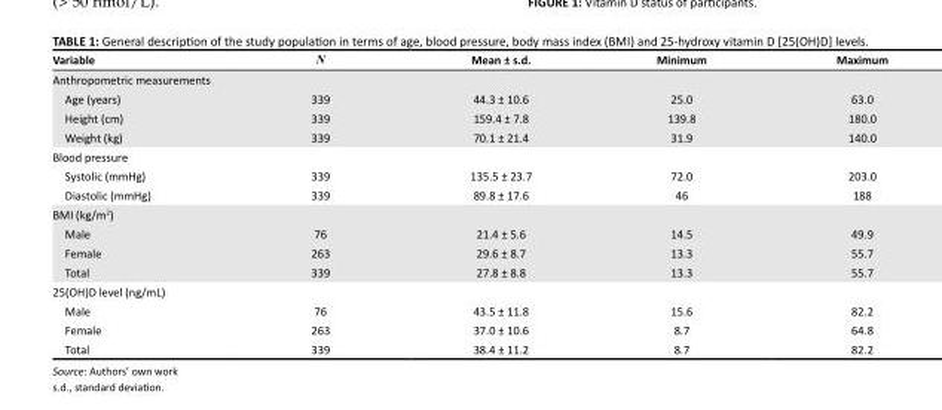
<table><thead><tr><td>Variable</td><td>N</td><td>Mean ± s.d.</td><td>Minimum</td><td>Maximum</td></tr></thead><tbody><tr><td colspan="5">Anthropometric measurements</td></tr><tr><td>Age (years)</td><td>339</td><td>44.3 ± 10.6</td><td>25.0</td><td>63.0</td></tr><tr><td>Height (cm)</td><td>339</td><td>159.4 ± 7.8</td><td>139.8</td><td>180.0</td></tr><tr><td>Weight (kg)</td><td>339</td><td>70.1 ± 21.4</td><td>31.9</td><td>140.0</td></tr><tr><td colspan="5">Blood pressure</td></tr><tr><td>Systolic (mmHg)</td><td>339</td><td>135.5 ± 23.7</td><td>72.0</td><td>203.0</td></tr><tr><td>Diastolic (mmHg)</td><td>339</td><td>89.8 ± 17.6</td><td>46</td><td>188</td></tr><tr><td colspan="5">BMI (kg/m<sup>2</sup>)</td></tr><tr><td>Male</td><td>76</td><td>21.4 ± 5.6</td><td>14.5</td><td>49.9</td></tr><tr><td>Female</td><td>263</td><td>29.6 ± 8.7</td><td>13.3</td><td>55.7</td></tr><tr><td>Total</td><td>339</td><td>27.8 ± 8.8</td><td>13.3</td><td>55.7</td></tr><tr><td colspan="5">25(OH)D level (ng/mL)</td></tr><tr><td>Male</td><td>76</td><td>43.5 ± 11.8</td><td>15.6</td><td>82.2</td></tr><tr><td>Female</td><td>263</td><td>37.0 ± 10.6</td><td>8.7</td><td>64.8</td></tr><tr><td>Total</td><td>339</td><td>38.4 ± 11.2</td><td>8.7</td><td>82.2</td></tr></tbody></table>